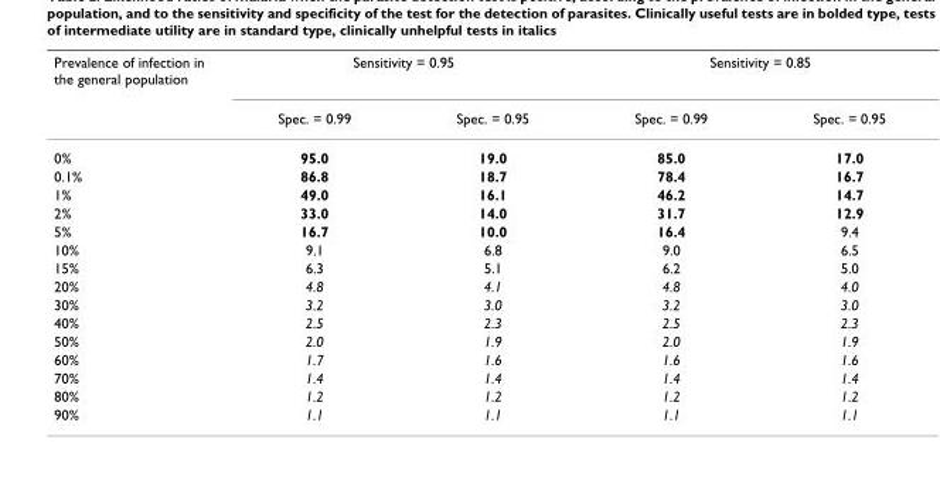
<table><thead><tr><td rowspan="2">Prevalence of infection in the general population</td><td colspan="2">Sensitivity = 0.95</td><td colspan="2">Sensitivity = 0.85</td></tr><tr><td>Spec. = 0.99</td><td>Spec. = 0.95</td><td>Spec. = 0.99</td><td>Spec. = 0.95</td></tr></thead><tbody><tr><td>0%</td><td>95.0</td><td>19.0</td><td>85.0</td><td>17.0</td></tr><tr><td>0.1%</td><td>86.8</td><td>18.7</td><td>78.4</td><td>16.7</td></tr><tr><td>1%</td><td>49.0</td><td>16.1</td><td>46.2</td><td>14.7</td></tr><tr><td>2%</td><td>33.0</td><td>14.0</td><td>31.7</td><td>12.9</td></tr><tr><td>5%</td><td>16.7</td><td>10.0</td><td>16.4</td><td>9.4</td></tr><tr><td>10%</td><td>9.1</td><td>6.8</td><td>9.0</td><td>6.5</td></tr><tr><td>15%</td><td>6.3</td><td>5.1</td><td>6.2</td><td>5.0</td></tr><tr><td>20%</td><td>4.8</td><td>4.1</td><td>4.8</td><td>4.0</td></tr><tr><td>30%</td><td>3.2</td><td>3.0</td><td>3.2</td><td>3.0</td></tr><tr><td>40%</td><td>2.5</td><td>2.3</td><td>2.5</td><td>2.3</td></tr><tr><td>50%</td><td>2.0</td><td>1.9</td><td>2.0</td><td>1.9</td></tr><tr><td>60%</td><td>1.7</td><td>1.6</td><td>1.6</td><td>1.6</td></tr><tr><td>70%</td><td>1.4</td><td>1.4</td><td>1.4</td><td>1.4</td></tr><tr><td>80%</td><td>1.2</td><td>1.2</td><td>1.2</td><td>1.2</td></tr><tr><td>90%</td><td>1.1</td><td>1.1</td><td>1.1</td><td>1.1</td></tr></tbody></table>